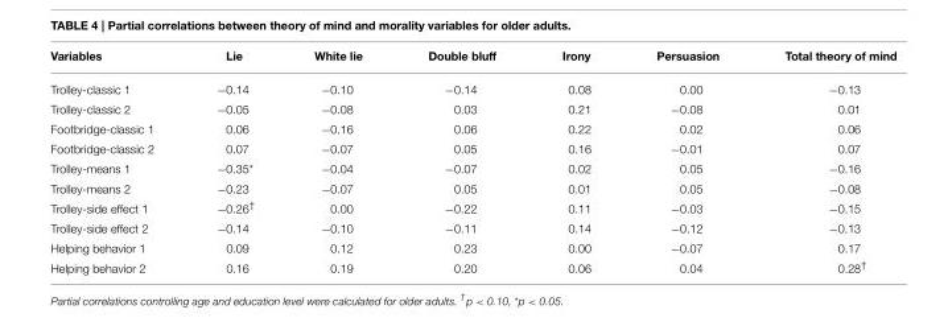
<table><thead><tr><td>Variables</td><td>Lie</td><td>White lie</td><td>Double bluff</td><td>Irony</td><td>Persuasion</td><td>Total theory of mind</td></tr></thead><tbody><tr><td>Trolley-classic 1</td><td>−0.14</td><td>−0.10</td><td>−0.14</td><td>0.08</td><td>0.00</td><td>−0.13</td></tr><tr><td>Trolley-classic 2</td><td>−0.05</td><td>−0.08</td><td>0.03</td><td>0.21</td><td>−0.08</td><td>0.01</td></tr><tr><td>Footbridge-classic 1</td><td>0.06</td><td>−0.16</td><td>0.06</td><td>0.22</td><td>0.02</td><td>0.06</td></tr><tr><td>Footbridge-classic 2</td><td>0.07</td><td>−0.07</td><td>0.05</td><td>0.16</td><td>−0.01</td><td>0.07</td></tr><tr><td>Trolley-means 1</td><td>−0.35*</td><td>−0.04</td><td>−0.07</td><td>0.02</td><td>0.05</td><td>−0.16</td></tr><tr><td>Trolley-means 2</td><td>−0.23</td><td>−0.07</td><td>0.05</td><td>0.01</td><td>0.05</td><td>−0.08</td></tr><tr><td>Trolley-side effect 1</td><td>−0.26<sup>†</sup></td><td>0.00</td><td>−0.22</td><td>0.11</td><td>−0.03</td><td>−0.15</td></tr><tr><td>Trolley-side effect 2</td><td>−0.14</td><td>−0.10</td><td>−0.11</td><td>0.14</td><td>−0.12</td><td>−0.13</td></tr><tr><td>Helping behavior 1</td><td>0.09</td><td>0.12</td><td>0.23</td><td>0.00</td><td>−0.07</td><td>0.17</td></tr><tr><td>Helping behavior 2</td><td>0.16</td><td>0.19</td><td>0.20</td><td>0.06</td><td>0.04</td><td>0.28<sup>†</sup></td></tr></tbody></table>